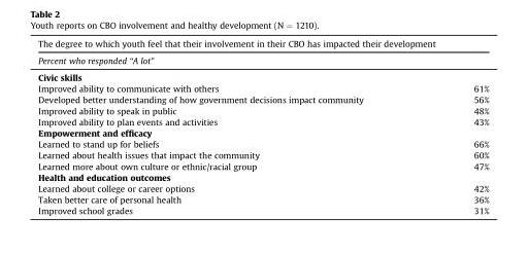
<table><thead><tr><td rowspan="3" colspan="2">The degree to which youth feel that their involvement in their CBO has impacted their development Percent who responded “A lot” Civic skills</td></tr><tr></tr><tr></tr><tr><td>Improved ability to communicate with others</td><td>61%</td></tr></thead><tbody><tr><td>Developed better understanding of how government decisions impact community</td><td>56%</td></tr><tr><td>Improved ability to speak in public</td><td>48%</td></tr><tr><td>Improved ability to plan events and activities</td><td>43%</td></tr><tr><td colspan="2">Empowerment and efficacy</td></tr><tr><td>Learned to stand up for beliefs</td><td>66%</td></tr><tr><td>Learned about health issues that impact the community</td><td>60%</td></tr><tr><td>Learned more about own culture or ethnic/racial group</td><td>47%</td></tr><tr><td colspan="2">Health and education outcomes</td></tr><tr><td>Learned about college or career options</td><td>42%</td></tr><tr><td>Taken better care of personal health</td><td>36%</td></tr><tr><td>Improved school grades</td><td>31%</td></tr></tbody></table>